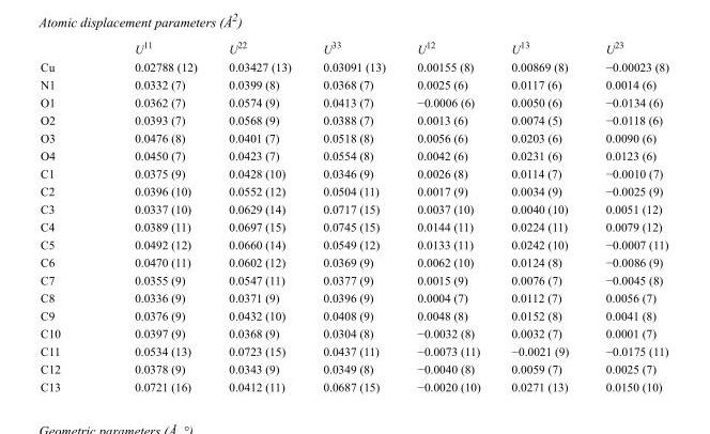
<table><thead><tr><td></td><td>U<sup>11</sup></td><td>U<sup>22</sup></td><td>U<sup>33</sup></td><td>U<sup>12</sup></td><td>U<sup>13</sup></td><td>U<sup>23</sup></td></tr></thead><tbody><tr><td>Cu</td><td>0.02788 (12)</td><td>0.03427 (13)</td><td>0.03091 (13)</td><td>0.00155 (8)</td><td>0.00869 (8)</td><td>−0.00023 (8)</td></tr><tr><td>N1</td><td>0.0332 (7)</td><td>0.0399 (8)</td><td>0.0368 (7)</td><td>0.0025 (6)</td><td>0.0117 (6)</td><td>0.0014 (6)</td></tr><tr><td>O1</td><td>0.0362 (7)</td><td>0.0574 (9)</td><td>0.0413 (7)</td><td>−0.0006 (6)</td><td>0.0050 (6)</td><td>−0.0134 (6)</td></tr><tr><td>O2</td><td>0.0393 (7)</td><td>0.0568 (9)</td><td>0.0388 (7)</td><td>0.0013 (6)</td><td>0.0074 (5)</td><td>−0.0118 (6)</td></tr><tr><td>O3</td><td>0.0476 (8)</td><td>0.0401 (7)</td><td>0.0518 (8)</td><td>0.0056 (6)</td><td>0.0203 (6)</td><td>0.0090 (6)</td></tr><tr><td>O4</td><td>0.0450 (7)</td><td>0.0423 (7)</td><td>0.0554 (8)</td><td>0.0042 (6)</td><td>0.0231 (6)</td><td>0.0123 (6)</td></tr><tr><td>C1</td><td>0.0375 (9)</td><td>0.0428 (10)</td><td>0.0346 (9)</td><td>0.0026 (8)</td><td>0.0114 (7)</td><td>−0.0010 (7)</td></tr><tr><td>C2</td><td>0.0396 (10)</td><td>0.0552 (12)</td><td>0.0504 (11)</td><td>0.0017 (9)</td><td>0.0034 (9)</td><td>−0.0025 (9)</td></tr><tr><td>C3</td><td>0.0337 (10)</td><td>0.0629 (14)</td><td>0.0717 (15)</td><td>0.0037 (10)</td><td>0.0040 (10)</td><td>0.0051 (12)</td></tr><tr><td>C4</td><td>0.0389 (11)</td><td>0.0697 (15)</td><td>0.0745 (15)</td><td>0.0144 (11)</td><td>0.0224 (11)</td><td>0.0079 (12)</td></tr><tr><td>C5</td><td>0.0492 (12)</td><td>0.0660 (14)</td><td>0.0549 (12)</td><td>0.0133 (11)</td><td>0.0242 (10)</td><td>−0.0007 (11)</td></tr><tr><td>C6</td><td>0.0470 (11)</td><td>0.0602 (12)</td><td>0.0369 (9)</td><td>0.0062 (10)</td><td>0.0124 (8)</td><td>−0.0086 (9)</td></tr><tr><td>C7</td><td>0.0355 (9)</td><td>0.0547 (11)</td><td>0.0377 (9)</td><td>0.0015 (9)</td><td>0.0076 (7)</td><td>−0.0045 (8)</td></tr><tr><td>C8</td><td>0.0336 (9)</td><td>0.0371 (9)</td><td>0.0396 (9)</td><td>0.0004 (7)</td><td>0.0112 (7)</td><td>0.0056 (7)</td></tr><tr><td>C9</td><td>0.0376 (9)</td><td>0.0432 (10)</td><td>0.0408 (9)</td><td>0.0048 (8)</td><td>0.0152 (8)</td><td>0.0041 (8)</td></tr><tr><td>C10</td><td>0.0397 (9)</td><td>0.0368 (9)</td><td>0.0304 (8)</td><td>−0.0032 (8)</td><td>0.0032 (7)</td><td>0.0001 (7)</td></tr><tr><td>C11</td><td>0.0534 (13)</td><td>0.0723 (15)</td><td>0.0437 (11)</td><td>−0.0073 (11)</td><td>−0.0021 (9)</td><td>−0.0175 (11)</td></tr><tr><td>C12</td><td>0.0378 (9)</td><td>0.0343 (9)</td><td>0.0349 (8)</td><td>−0.0040 (8)</td><td>0.0059 (7)</td><td>0.0025 (7)</td></tr><tr><td>C13</td><td>0.0721 (16)</td><td>0.0412 (11)</td><td>0.0687 (15)</td><td>−0.0020 (10)</td><td>0.0271 (13)</td><td>0.0150 (10)</td></tr></tbody></table>